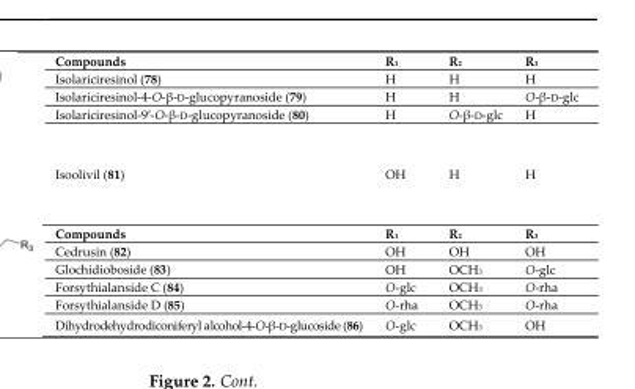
<table><tbody><tr><td>Compounds</td><td>R<sub>1</sub></td><td>R<sub>2</sub></td><td>R<sub>3</sub></td></tr><tr><td>Isolariciresinol (78)</td><td>H</td><td>H</td><td>H</td></tr><tr><td>Isolariciresinol-4-O-β-D-glucopyranoside (79)</td><td>H</td><td>H</td><td>O-β-D-glc</td></tr><tr><td>Isolariciresinol-9′-O-β-D-glucopyranoside (80)</td><td>H</td><td>O-β-D-glc</td><td>H</td></tr><tr><td>Isoolivil (81)</td><td>OH</td><td>H</td><td>H</td></tr><tr><td>Compounds</td><td>R<sub>1</sub></td><td>R<sub>2</sub></td><td>R<sub>3</sub></td></tr><tr><td>Cedrusin (82)</td><td>OH</td><td>OH</td><td>OH</td></tr><tr><td>Glochidioboside (83)</td><td>OH</td><td>OCH<sub>3</sub></td><td>O-glc</td></tr><tr><td>Forsythialanside C (84)</td><td>O-glc</td><td>OCH<sub>3</sub></td><td>O-rha</td></tr><tr><td>Forsythialanside D (85)</td><td>O-rha</td><td>OCH<sub>3</sub></td><td>O-rha</td></tr><tr><td>Dihydrodehydrodiconiferyl alcohol-4-O-β-D-glucoside (86)</td><td>O-glc</td><td>OCH<sub>3</sub></td><td>OH</td></tr></tbody></table>